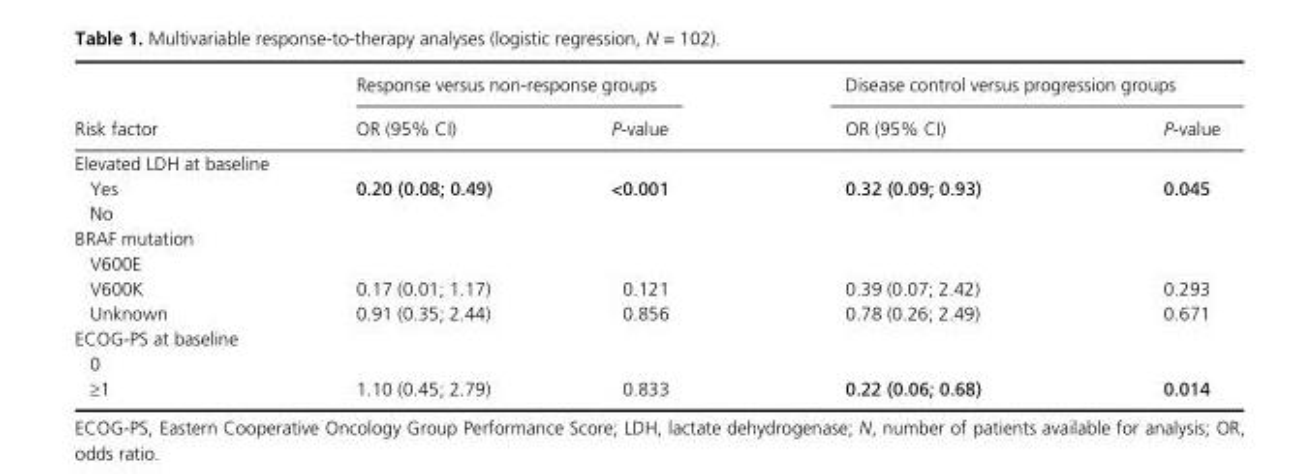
<table><thead><tr><td rowspan="2">Risk factor</td><td colspan="2">Response versus non- response groups</td><td colspan="2">Disease control versus progression groups</td></tr><tr><td>OR (95% CI)</td><td>P- value</td><td>OR (95% CI)</td><td>P- value</td></tr></thead><tbody><tr><td colspan="5">Elevated LDH at baseline</td></tr><tr><td>Yes</td><td>0.20 (0.08; 0.49)</td><td>&lt;0.001</td><td>0.32 (0.09; 0.93)</td><td>0.045</td></tr><tr><td colspan="5">No</td></tr><tr><td colspan="5">BRAF mutation</td></tr><tr><td colspan="5">V600E</td></tr><tr><td>V600K</td><td>0.17 (0.01; 1.17)</td><td>0.121</td><td>0.39 (0.07; 2.42)</td><td>0.293</td></tr><tr><td>Unknown</td><td>0.91 (0.35; 2.44)</td><td>0.856</td><td>0.78 (0.26; 2.49)</td><td>0.671</td></tr><tr><td colspan="5">ECOG- PS at baseline</td></tr><tr><td colspan="5">0</td></tr><tr><td>≥1</td><td>1.10 (0.45; 2.79)</td><td>0.833</td><td>0.22 (0.06; 0.68)</td><td>0.014</td></tr></tbody></table>